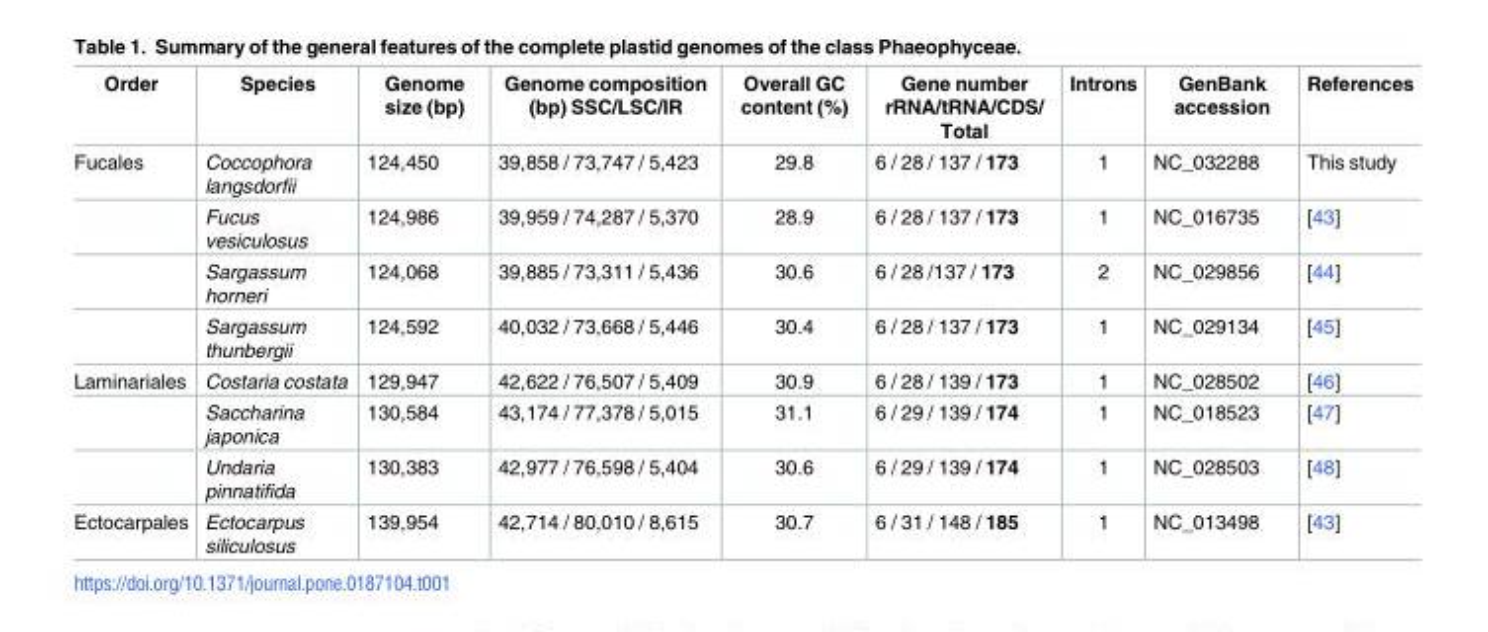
<table><thead><tr><td>Order</td><td>Species</td><td>Genome size (bp)</td><td>Genome composition (bp) SSC/LSC/IR</td><td>Overall GC content (%)</td><td>Gene number rRNA/tRNA/CDS/ Total</td><td>Introns</td><td>GenBank accession</td><td>References</td></tr></thead><tbody><tr><td rowspan="4">Fucales</td><td>Coccophora langsdorfii</td><td>124,450</td><td>39,858 / 73,747 / 5,423</td><td>29.8</td><td>6 / 28 / 137 / 173</td><td>1</td><td>NC_032288</td><td>This study</td></tr><tr><td>Fucus vesiculosus</td><td>124,986</td><td>39,959 / 74,287 / 5,370</td><td>28.9</td><td>6 / 28 / 137 / 173</td><td>1</td><td>NC_016735</td><td>[43]</td></tr><tr><td>Sargassum horneri</td><td>124,068</td><td>39,885 / 73,311 / 5,436</td><td>30.6</td><td>6 / 28 /137 / 173</td><td>2</td><td>NC_029856</td><td>[44]</td></tr><tr><td>Sargassum thunbergii</td><td>124,592</td><td>40,032 / 73,668 / 5,446</td><td>30.4</td><td>6 / 28 / 137 / 173</td><td>1</td><td>NC_029134</td><td>[45]</td></tr><tr><td rowspan="3">Laminariales</td><td>Costaria costata</td><td>129,947</td><td>42,622 / 76,507 / 5,409</td><td>30.9</td><td>6 / 28 / 139 / 173</td><td>1</td><td>NC_028502</td><td>[46]</td></tr><tr><td>Saccharina japonica</td><td>130,584</td><td>43,174 / 77,378 / 5,015</td><td>31.1</td><td>6 / 29 / 139 / 174</td><td>1</td><td>NC_018523</td><td>[47]</td></tr><tr><td>Undaria pinnatifida</td><td>130,383</td><td>42,977 / 76,598 / 5,404</td><td>30.6</td><td>6 / 29 / 139 / 174</td><td>1</td><td>NC_028503</td><td>[48]</td></tr><tr><td>Ectocarpales</td><td>Ectocarpus siliculosus</td><td>139,954</td><td>42,714 / 80,010 / 8,615</td><td>30.7</td><td>6 / 31 / 148 / 185</td><td>1</td><td>NC_013498</td><td>[43]</td></tr></tbody></table>